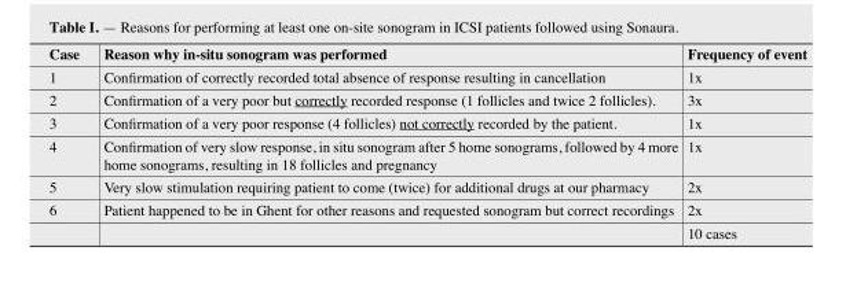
<table><tbody><tr><td>Case</td><td>Reason why in-situ sonogram was performed</td><td>Frequency of event</td></tr><tr><td>1</td><td>Confirmation of correctly recorded total absence of response resulting in cancellation</td><td>1x</td></tr><tr><td>2</td><td>Confirmation of a very poor but correctly recorded response (1 follicles and twice 2 follicles).</td><td>3x</td></tr><tr><td>3</td><td>Confirmation of a very poor response (4 follicles) not correctly recorded by the patient.</td><td>1x</td></tr><tr><td>4</td><td>Confirmation of very slow response, in situ sonogram after 5 home sonograms, followed by 4 more home sonograms, resulting in 18 follicles and pregnancy</td><td>1x</td></tr><tr><td>5</td><td>Very slow stimulation requiring patient to come (twice) for additional drugs at our pharmacy</td><td>2x</td></tr><tr><td rowspan="2">6</td><td>Patient happened to be in Ghent for other reasons and requested sonogram but correct recordings</td><td>2x</td></tr><tr><td></td><td>10 cases</td></tr></tbody></table>